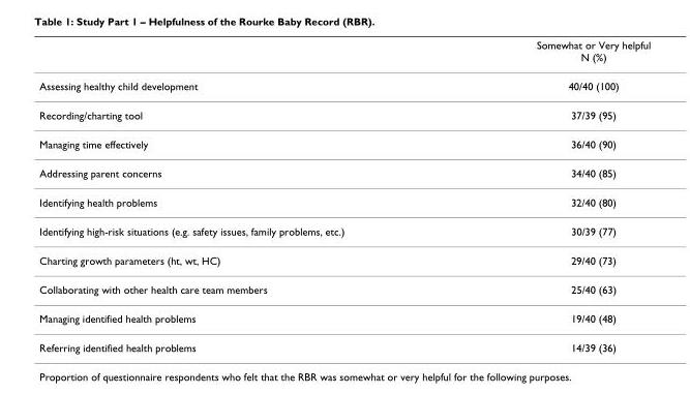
<table><thead><tr><td></td><td>Somewhat or Very helpful N (%)</td></tr></thead><tbody><tr><td>Assessing healthy child development</td><td>40/40 (100)</td></tr><tr><td>Recording/charting tool</td><td>37/39 (95)</td></tr><tr><td>Managing time effectively</td><td>36/40 (90)</td></tr><tr><td>Addressing parent concerns</td><td>34/40 (85)</td></tr><tr><td>Identifying health problems</td><td>32/40 (80)</td></tr><tr><td>Identifying high-risk situations (e.g. safety issues, family problems, etc.)</td><td>30/39 (77)</td></tr><tr><td>Charting growth parameters (ht, wt, HC)</td><td>29/40 (73)</td></tr><tr><td>Collaborating with other health care team members</td><td>25/40 (63)</td></tr><tr><td>Managing identified health problems</td><td>19/40 (48)</td></tr><tr><td>Referring identified health problems</td><td>14/39 (36)</td></tr></tbody></table>